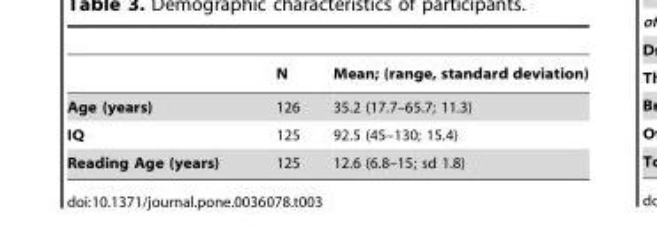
<table><thead><tr><td></td><td>N</td><td>Mean; (range, standard deviation)</td></tr></thead><tbody><tr><td>Age (years)</td><td>126</td><td>35.2 (17.7–65.7; 11.3)</td></tr><tr><td>IQ</td><td>125</td><td>92.5 (45–130; 15.4)</td></tr><tr><td>Reading Age (years)</td><td>125</td><td>12.6 (6.8–15; sd 1.8)</td></tr></tbody></table>